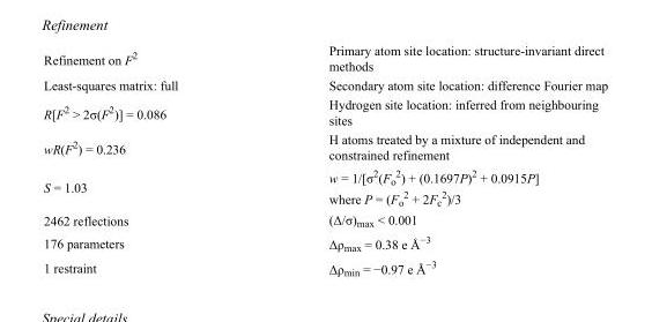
<table><tbody><tr><td>Refinement on F<sup>2</sup></td><td>Primary atom site location: structure-invariant direct methods</td></tr><tr><td>Least-squares matrix: full</td><td>Secondary atom site location: difference Fourier map</td></tr><tr><td>R[F<sup>2</sup> &gt; 2σ(F<sup>2</sup>)] = 0.086</td><td>Hydrogen site location: inferred from neighbouring sites</td></tr><tr><td>wR(F<sup>2</sup>) = 0.236</td><td>H atoms treated by a mixture of independent and constrained refinement</td></tr><tr><td>S = 1.03</td><td>w = 1/[σ<sup>2</sup>(F<sub>o</sub> <sup>2</sup>) + (0.1697P)<sup>2</sup> + 0.0915P] where P = (F<sub>o</sub> <sup>2</sup> + 2F<sub>c</sub> <sup>2</sup>)/3</td></tr><tr><td>2462 reflections</td><td>(Δ/σ)<sub>max</sub> &lt; 0.001</td></tr><tr><td>176 parameters</td><td>Δρ<sub>max</sub> = 0.38 e Å<sup>−3</sup></td></tr><tr><td>1 restraint</td><td>Δρ<sub>min</sub> = −0.97 e Å<sup>−3</sup></td></tr></tbody></table>